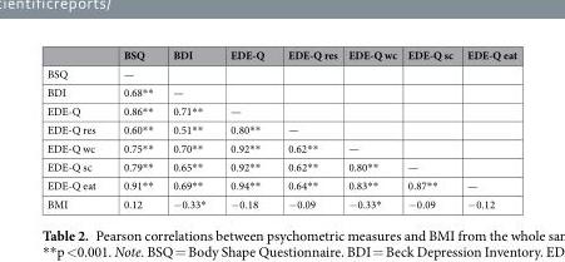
<table><thead><tr><td></td><td>BSQ</td><td>BDI</td><td>EDE-Q</td><td>EDE-Q res</td><td>EDE-Q wc</td><td>EDE-Q sc</td><td>EDE-Q eat</td></tr></thead><tbody><tr><td>BSQ</td><td>—</td><td></td><td></td><td></td><td></td><td></td><td></td></tr><tr><td>BDI</td><td>0.68**</td><td>—</td><td></td><td></td><td></td><td></td><td></td></tr><tr><td>EDE-Q</td><td>0.86**</td><td>0.71**</td><td>—</td><td></td><td></td><td></td><td></td></tr><tr><td>EDE-Q res</td><td>0.60**</td><td>0.51**</td><td>0.80**</td><td>—</td><td></td><td></td><td></td></tr><tr><td>EDE-Q wc</td><td>0.75**</td><td>0.70**</td><td>0.92**</td><td>0.62**</td><td>—</td><td></td><td></td></tr><tr><td>EDE-Q sc</td><td>0.79**</td><td>0.65**</td><td>0.92**</td><td>0.62**</td><td>0.80**</td><td>—</td><td></td></tr><tr><td>EDE-Q eat</td><td>0.91**</td><td>0.69**</td><td>0.94**</td><td>0.64**</td><td>0.83**</td><td>0.87**</td><td>—</td></tr><tr><td>BMI</td><td>0.12</td><td>−0.33*</td><td>−0.18</td><td>−0.09</td><td>−0.33*</td><td>−0.09</td><td>−0.12</td></tr></tbody></table>